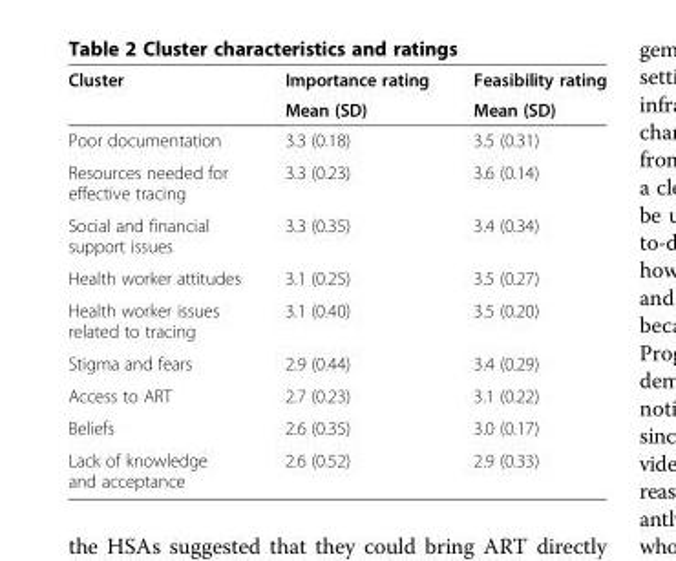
<table><thead><tr><td rowspan="2">Cluster</td><td rowspan="2">Importance rating Mean (SD)</td><td rowspan="2">Feasibility rating Mean (SD)</td></tr><tr></tr></thead><tbody><tr><td>Poor documentation</td><td>3.3 (0.18)</td><td>3.5 (0.31)</td></tr><tr><td>Resources needed for effective tracing</td><td>3.3 (0.23)</td><td>3.6 (0.14)</td></tr><tr><td>Social and financial support issues</td><td>3.3 (0.35)</td><td>3.4 (0.34)</td></tr><tr><td>Health worker attitudes</td><td>3.1 (0.25)</td><td>3.5 (0.27)</td></tr><tr><td>Health worker issues related to tracing</td><td>3.1 (0.40)</td><td>3.5 (0.20)</td></tr><tr><td>Stigma and fears</td><td>2.9 (0.44)</td><td>3.4 (0.29)</td></tr><tr><td>Access to ART</td><td>2.7 (0.23)</td><td>3.1 (0.22)</td></tr><tr><td>Beliefs</td><td>2.6 (0.35)</td><td>3.0 (0.17)</td></tr><tr><td>Lack of knowledge and acceptance</td><td>2.6 (0.52)</td><td>2.9 (0.33)</td></tr></tbody></table>